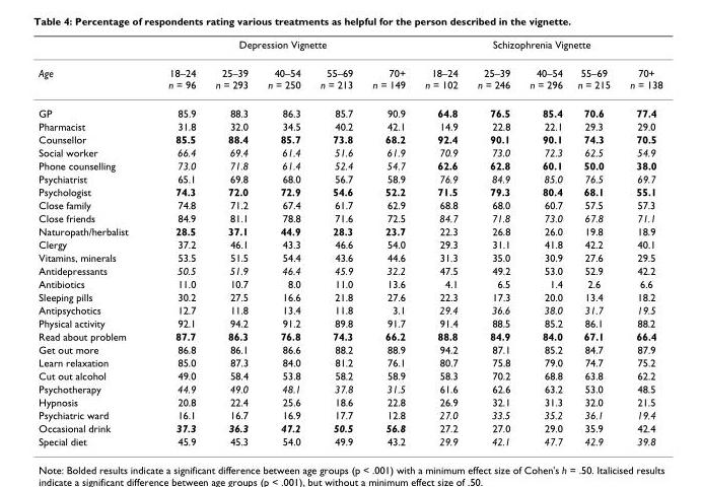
<table><thead><tr><td rowspan="2">Age</td><td colspan="5">Depression Vignette</td><td colspan="5">Schizophrenia Vignette</td></tr><tr><td>18–24 n = 96</td><td>25–39 n = 293</td><td>40–54 n = 250</td><td>55–69 n = 213</td><td>70+ n = 149</td><td>18–24 n = 102</td><td>25–39 n = 246</td><td>40–54 n = 296</td><td>55–69 n = 215</td><td>70+ n = 138</td></tr></thead><tbody><tr><td>GP</td><td>85.9</td><td>88.3</td><td>86.3</td><td>85.7</td><td>90.9</td><td>64.8</td><td>76.5</td><td>85.4</td><td>70.6</td><td>77.4</td></tr><tr><td>Pharmacist</td><td>31.8</td><td>32.0</td><td>34.5</td><td>40.2</td><td>42.1</td><td>14.9</td><td>22.8</td><td>22.1</td><td>29.3</td><td>29.0</td></tr><tr><td>Counsellor</td><td>85.5</td><td>88.4</td><td>85.7</td><td>73.8</td><td>68.2</td><td>92.4</td><td>90.1</td><td>90.1</td><td>74.3</td><td>70.5</td></tr><tr><td>Social worker</td><td>66.4</td><td>69.4</td><td>61.4</td><td>51.6</td><td>61.9</td><td>70.9</td><td>73.0</td><td>72.3</td><td>62.5</td><td>54.9</td></tr><tr><td>Phone counselling</td><td>73.0</td><td>71.8</td><td>61.4</td><td>52.4</td><td>54.7</td><td>62.6</td><td>62.8</td><td>60.1</td><td>50.0</td><td>38.0</td></tr><tr><td>Psychiatrist</td><td>65.1</td><td>69.8</td><td>68.0</td><td>56.7</td><td>58.9</td><td>76.9</td><td>84.9</td><td>85.0</td><td>76.5</td><td>69.7</td></tr><tr><td>Psychologist</td><td>74.3</td><td>72.0</td><td>72.9</td><td>54.6</td><td>52.2</td><td>71.5</td><td>79.3</td><td>80.4</td><td>68.1</td><td>55.1</td></tr><tr><td>Close family</td><td>74.8</td><td>71.2</td><td>67.4</td><td>61.7</td><td>62.9</td><td>68.8</td><td>68.0</td><td>60.7</td><td>57.5</td><td>57.3</td></tr><tr><td>Close friends</td><td>84.9</td><td>81.1</td><td>78.8</td><td>71.6</td><td>72.5</td><td>84.7</td><td>71.8</td><td>73.0</td><td>67.8</td><td>71.1</td></tr><tr><td>Naturopath/herbalist</td><td>28.5</td><td>37.1</td><td>44.9</td><td>28.3</td><td>23.7</td><td>22.3</td><td>26.8</td><td>26.0</td><td>19.8</td><td>18.9</td></tr><tr><td>Clergy</td><td>37.2</td><td>46.1</td><td>43.3</td><td>46.6</td><td>54.0</td><td>29.3</td><td>31.1</td><td>41.8</td><td>42.2</td><td>40.1</td></tr><tr><td>Vitamins, minerals</td><td>53.5</td><td>51.5</td><td>54.4</td><td>43.6</td><td>44.6</td><td>31.3</td><td>35.0</td><td>30.9</td><td>27.6</td><td>29.5</td></tr><tr><td>Antidepressants</td><td>50.5</td><td>51.9</td><td>46.4</td><td>45.9</td><td>32.2</td><td>47.5</td><td>49.2</td><td>53.0</td><td>52.9</td><td>42.2</td></tr><tr><td>Antibiotics</td><td>11.0</td><td>10.7</td><td>8.0</td><td>11.0</td><td>13.6</td><td>4.1</td><td>6.5</td><td>1.4</td><td>2.6</td><td>6.6</td></tr><tr><td>Sleeping pills</td><td>30.2</td><td>27.5</td><td>16.6</td><td>21.8</td><td>27.6</td><td>22.3</td><td>17.3</td><td>20.0</td><td>13.4</td><td>18.2</td></tr><tr><td>Antipsychotics</td><td>12.7</td><td>11.8</td><td>13.4</td><td>11.8</td><td>3.1</td><td>29.4</td><td>36.6</td><td>38.0</td><td>31.7</td><td>19.5</td></tr><tr><td>Physical activity</td><td>92.1</td><td>94.2</td><td>91.2</td><td>89.8</td><td>91.7</td><td>91.4</td><td>88.5</td><td>85.2</td><td>86.1</td><td>88.2</td></tr><tr><td>Read about problem</td><td>87.7</td><td>86.3</td><td>76.8</td><td>74.3</td><td>66.2</td><td>88.8</td><td>84.9</td><td>84.0</td><td>67.1</td><td>66.4</td></tr><tr><td>Get out more</td><td>86.8</td><td>86.1</td><td>86.6</td><td>88.2</td><td>88.9</td><td>94.2</td><td>87.1</td><td>85.2</td><td>84.7</td><td>87.9</td></tr><tr><td>Learn relaxation</td><td>85.0</td><td>87.3</td><td>84.0</td><td>81.2</td><td>76.1</td><td>80.7</td><td>75.8</td><td>79.0</td><td>74.7</td><td>75.2</td></tr><tr><td>Cut out alcohol</td><td>49.0</td><td>58.4</td><td>53.8</td><td>58.2</td><td>58.9</td><td>58.3</td><td>70.2</td><td>68.8</td><td>63.8</td><td>62.2</td></tr><tr><td>Psychotherapy</td><td>44.9</td><td>49.0</td><td>48.1</td><td>37.8</td><td>31.5</td><td>61.6</td><td>62.6</td><td>63.2</td><td>53.0</td><td>48.5</td></tr><tr><td>Hypnosis</td><td>20.8</td><td>22.4</td><td>25.6</td><td>18.6</td><td>22.8</td><td>26.9</td><td>32.1</td><td>31.3</td><td>32.0</td><td>21.5</td></tr><tr><td>Psychiatric ward</td><td>16.1</td><td>16.7</td><td>16.9</td><td>17.7</td><td>12.8</td><td>27.0</td><td>33.5</td><td>35.2</td><td>36.1</td><td>19.4</td></tr><tr><td>Occasional drink</td><td>37.3</td><td>36.3</td><td>47.2</td><td>50.5</td><td>56.8</td><td>27.2</td><td>27.0</td><td>29.0</td><td>35.9</td><td>42.4</td></tr><tr><td>Special diet</td><td>45.9</td><td>45.3</td><td>54.0</td><td>49.9</td><td>43.2</td><td>29.9</td><td>42.1</td><td>47.7</td><td>42.9</td><td>39.8</td></tr></tbody></table>